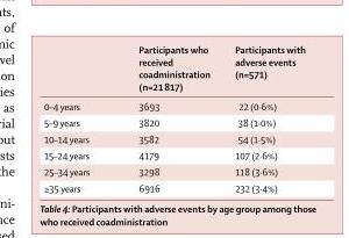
<table><thead><tr><td></td><td>Participants who received coadministration (n=21 817)</td><td>Participants with adverse events (n=571)</td></tr></thead><tbody><tr><td>0–4 years</td><td>3693</td><td>22 (0·6%)</td></tr><tr><td>5–9 years</td><td>3820</td><td>38 (1·0%)</td></tr><tr><td>10–14 years</td><td>3582</td><td>54 (1·5%)</td></tr><tr><td>15–24 years</td><td>4179</td><td>107 (2·6%)</td></tr><tr><td>25–34 years</td><td>3298</td><td>118 (3·6%)</td></tr><tr><td>≥35 years</td><td>6916</td><td>232 (3·4%)</td></tr></tbody></table>